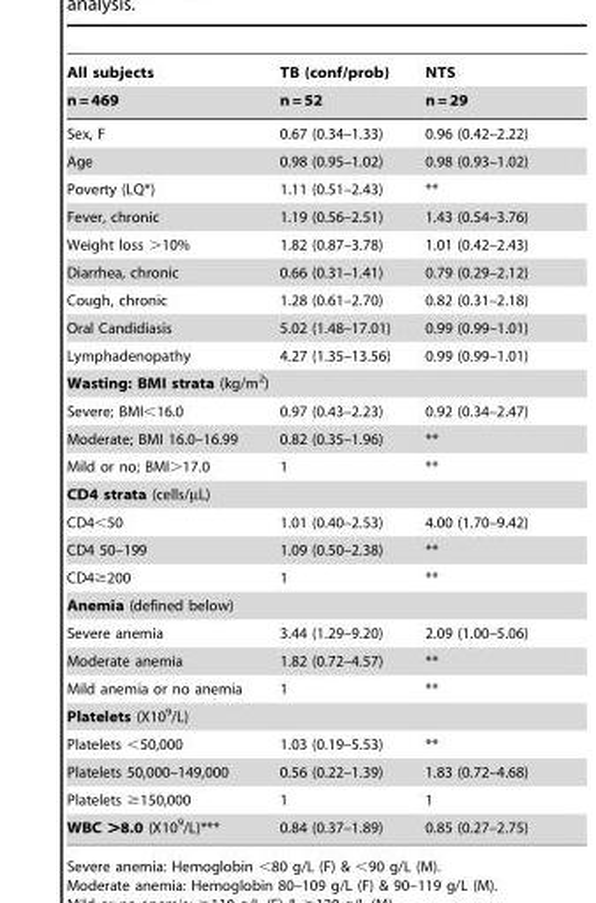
<table><thead><tr><td rowspan="2">All subjects n = 469</td><td rowspan="2">TB (conf/prob) n = 52</td><td rowspan="2">NTS n = 29</td></tr><tr></tr></thead><tbody><tr><td>Sex, F</td><td>0.67 (0.34–1.33)</td><td>0.96 (0.42–2.22)</td></tr><tr><td>Age</td><td>0.98 (0.95–1.02)</td><td>0.98 (0.93–1.02)</td></tr><tr><td>Poverty (LQ*)</td><td>1.11 (0.51–2.43)</td><td>**</td></tr><tr><td>Fever, chronic</td><td>1.19 (0.56–2.51)</td><td>1.43 (0.54–3.76)</td></tr><tr><td>Weight loss &gt;10%</td><td>1.82 (0.87–3.78)</td><td>1.01 (0.42–2.43)</td></tr><tr><td>Diarrhea, chronic</td><td>0.66 (0.31–1.41)</td><td>0.79 (0.29–2.12)</td></tr><tr><td>Cough, chronic</td><td>1.28 (0.61–2.70)</td><td>0.82 (0.31–2.18)</td></tr><tr><td>Oral Candidiasis</td><td>5.02 (1.48–17.01)</td><td>0.99 (0.99–1.01)</td></tr><tr><td>Lymphadenopathy</td><td>4.27 (1.35–13.56)</td><td>0.99 (0.99–1.01)</td></tr><tr><td colspan="3">Wasting: BMI strata (kg/m<sup>2</sup>)</td></tr><tr><td>Severe; BMI&lt;16.0</td><td>0.97 (0.43–2.23)</td><td>0.92 (0.34–2.47)</td></tr><tr><td>Moderate; BMI 16.0–16.99</td><td>0.82 (0.35–1.96)</td><td>**</td></tr><tr><td>Mild or no; BMI&gt;17.0</td><td>1</td><td>**</td></tr><tr><td colspan="3">CD4 strata (cells/µL)</td></tr><tr><td>CD4&lt;50</td><td>1.01 (0.40–2.53)</td><td>4.00 (1.70–9.42)</td></tr><tr><td>CD4 50–199</td><td>1.09 (0.50–2.38)</td><td>**</td></tr><tr><td>CD4≥200</td><td>1</td><td>**</td></tr><tr><td colspan="3">Anemia (defined below)</td></tr><tr><td>Severe anemia</td><td>3.44 (1.29–9.20)</td><td>2.09 (1.00–5.06)</td></tr><tr><td>Moderate anemia</td><td>1.82 (0.72–4.57)</td><td>**</td></tr><tr><td>Mild anemia or no anemia</td><td>1</td><td>**</td></tr><tr><td colspan="3">Platelets (X10<sup>9</sup>/L)</td></tr><tr><td>Platelets &lt;50,000</td><td>1.03 (0.19–5.53)</td><td>**</td></tr><tr><td>Platelets 50,000–149,000</td><td>0.56 (0.22–1.39)</td><td>1.83 (0.72–4.68)</td></tr><tr><td>Platelets ≥150,000</td><td>1</td><td>1</td></tr><tr><td>WBC &gt;8.0 (X10<sup>9</sup>/L)***</td><td>0.84 (0.37–1.89)</td><td>0.85 (0.27–2.75)</td></tr></tbody></table>